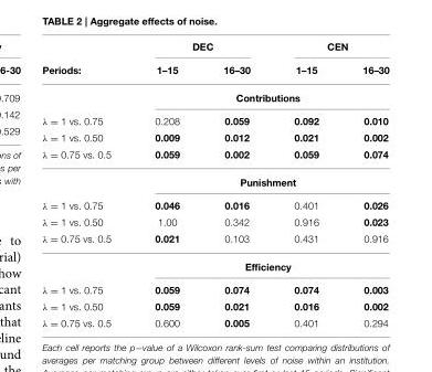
<table><thead><tr><td rowspan="2">Periods:</td><td colspan="2">DEC</td><td colspan="2">CEN</td></tr><tr><td>1–15</td><td>16–30</td><td>1–15</td><td>16–30</td></tr></thead><tbody><tr><td></td><td colspan="4">Contributions</td></tr><tr><td>λ = 1 vs. 0.75</td><td>0.208</td><td>0.059</td><td>0.092</td><td>0.010</td></tr><tr><td>λ = 1 vs. 0.50</td><td>0.009</td><td>0.012</td><td>0.021</td><td>0.002</td></tr><tr><td rowspan="2">λ = 0.75 vs. 0.5</td><td>0.059</td><td>0.002</td><td>0.059</td><td>0.074</td></tr><tr><td colspan="4">Punishment</td></tr><tr><td>λ = 1 vs. 0.75</td><td>0.046</td><td>0.016</td><td>0.401</td><td>0.026</td></tr><tr><td>λ = 1 vs. 0.50</td><td>1.00</td><td>0.342</td><td>0.916</td><td>0.023</td></tr><tr><td rowspan="2">λ = 0.75 vs. 0.5</td><td>0.021</td><td>0.103</td><td>0.431</td><td>0.916</td></tr><tr><td colspan="4">Efficiency</td></tr><tr><td>λ = 1 vs. 0.75</td><td>0.059</td><td>0.074</td><td>0.074</td><td>0.003</td></tr><tr><td>λ = 1 vs. 0.50</td><td>0.059</td><td>0.021</td><td>0.016</td><td>0.002</td></tr><tr><td>λ = 0.75 vs. 0.5</td><td>0.600</td><td>0.005</td><td>0.401</td><td>0.294</td></tr></tbody></table>